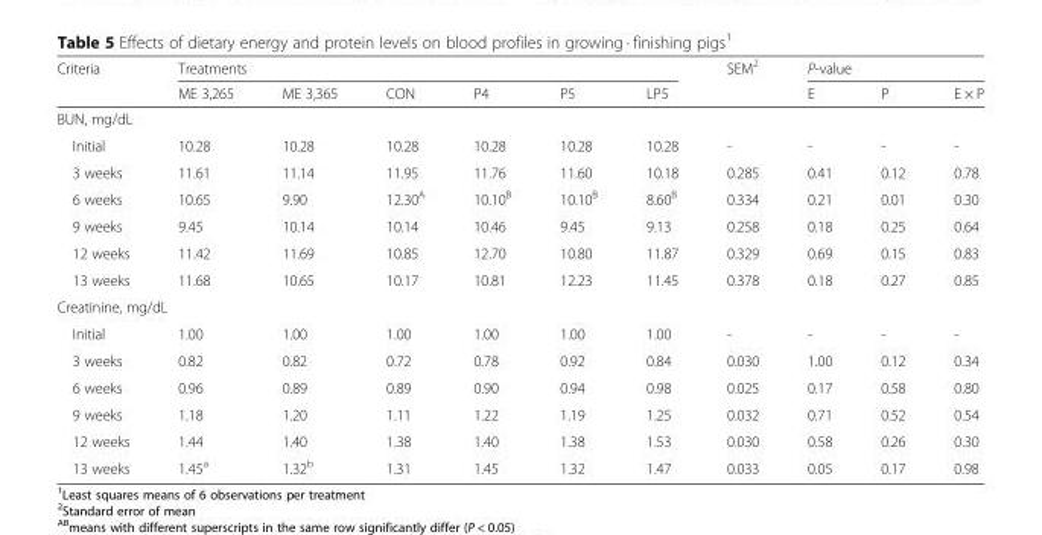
<table><thead><tr><td rowspan="2">Criteria</td><td colspan="6">Treatments</td><td rowspan="2">SEM<sup>2</sup></td><td colspan="3">P-value</td></tr><tr><td>ME 3,265</td><td>ME 3,365</td><td>CON</td><td>P4</td><td>P5</td><td>LP5</td><td>E</td><td>P</td><td>E × P</td></tr></thead><tbody><tr><td colspan="11">BUN, mg/dL</td></tr><tr><td>Initial</td><td>10.28</td><td>10.28</td><td>10.28</td><td>10.28</td><td>10.28</td><td>10.28</td><td>-</td><td>-</td><td>-</td><td>-</td></tr><tr><td>3 weeks</td><td>11.61</td><td>11.14</td><td>11.95</td><td>11.76</td><td>11.60</td><td>10.18</td><td>0.285</td><td>0.41</td><td>0.12</td><td>0.78</td></tr><tr><td>6 weeks</td><td>10.65</td><td>9.90</td><td>12.30<sup>A</sup></td><td>10.10<sup>B</sup></td><td>10.10<sup>B</sup></td><td>8.60<sup>B</sup></td><td>0.334</td><td>0.21</td><td>0.01</td><td>0.30</td></tr><tr><td>9 weeks</td><td>9.45</td><td>10.14</td><td>10.14</td><td>10.46</td><td>9.45</td><td>9.13</td><td>0.258</td><td>0.18</td><td>0.25</td><td>0.64</td></tr><tr><td>12 weeks</td><td>11.42</td><td>11.69</td><td>10.85</td><td>12.70</td><td>10.80</td><td>11.87</td><td>0.329</td><td>0.69</td><td>0.15</td><td>0.83</td></tr><tr><td>13 weeks</td><td>11.68</td><td>10.65</td><td>10.17</td><td>10.81</td><td>12.23</td><td>11.45</td><td>0.378</td><td>0.18</td><td>0.27</td><td>0.85</td></tr><tr><td colspan="11">Creatinine, mg/dL</td></tr><tr><td>Initial</td><td>1.00</td><td>1.00</td><td>1.00</td><td>1.00</td><td>1.00</td><td>1.00</td><td>-</td><td>-</td><td>-</td><td>-</td></tr><tr><td>3 weeks</td><td>0.82</td><td>0.82</td><td>0.72</td><td>0.78</td><td>0.92</td><td>0.84</td><td>0.030</td><td>1.00</td><td>0.12</td><td>0.34</td></tr><tr><td>6 weeks</td><td>0.96</td><td>0.89</td><td>0.89</td><td>0.90</td><td>0.94</td><td>0.98</td><td>0.025</td><td>0.17</td><td>0.58</td><td>0.80</td></tr><tr><td>9 weeks</td><td>1.18</td><td>1.20</td><td>1.11</td><td>1.22</td><td>1.19</td><td>1.25</td><td>0.032</td><td>0.71</td><td>0.52</td><td>0.54</td></tr><tr><td>12 weeks</td><td>1.44</td><td>1.40</td><td>1.38</td><td>1.40</td><td>1.38</td><td>1.53</td><td>0.030</td><td>0.58</td><td>0.26</td><td>0.30</td></tr><tr><td>13 weeks</td><td>1.45<sup>a</sup></td><td>1.32<sup>b</sup></td><td>1.31</td><td>1.45</td><td>1.32</td><td>1.47</td><td>0.033</td><td>0.05</td><td>0.17</td><td>0.98</td></tr></tbody></table>